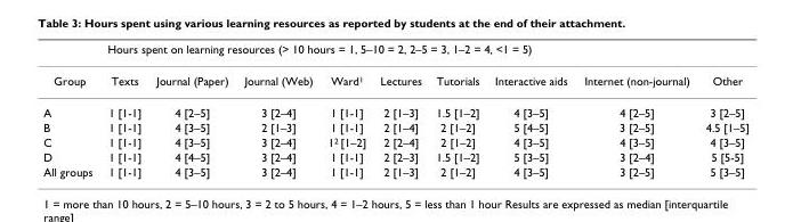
<table><thead><tr><td rowspan="2">Group</td><td colspan="9">Hours spent on learning resources (&gt; 10 hours = 1, 5–10 = 2, 2–5 = 3, 1–2 = 4, &lt;1 = 5)</td></tr><tr><td>Texts</td><td>Journal (Paper)</td><td>Journal (Web)</td><td>Ward<sup>1</sup></td><td>Lectures</td><td>Tutorials</td><td>Interactive aids</td><td>Internet (non-journal)</td><td>Other</td></tr></thead><tbody><tr><td>A</td><td>1 [1-1]</td><td>4 [2–5]</td><td>3 [2–4]</td><td>1 [1-1]</td><td>2 [1–3]</td><td>1.5 [1–2]</td><td>4 [3–5]</td><td>4 [2–5]</td><td>3 [2–5]</td></tr><tr><td>B</td><td>1 [1-1]</td><td>4 [3–5]</td><td>2 [1–3]</td><td>1 [1-1]</td><td>2 [1–4]</td><td>2 [1–2]</td><td>5 [4–5]</td><td>3 [2–5]</td><td>4.5 [1–5]</td></tr><tr><td>C</td><td>1 [1-1]</td><td>4 [3–5]</td><td>3 [2–4]</td><td>1<sup>2</sup> [1–2]</td><td>2 [2–4]</td><td>2 [1–2]</td><td>4 [3–5]</td><td>4 [3–5]</td><td>4 [3–5]</td></tr><tr><td>D</td><td>1 [1-1]</td><td>4 [4–5]</td><td>3 [2–4]</td><td>1 [1-1]</td><td>2 [2–3]</td><td>1.5 [1–2]</td><td>5 [3–5]</td><td>3 [2–4]</td><td>5 [5-5]</td></tr><tr><td>All groups</td><td>1 [1-1]</td><td>4 [3–5]</td><td>3 [2–4]</td><td>1 [1-1]</td><td>2 [1–3]</td><td>2 [1–2]</td><td>4 [3–5]</td><td>3 [2–5]</td><td>5 [3–5]</td></tr></tbody></table>